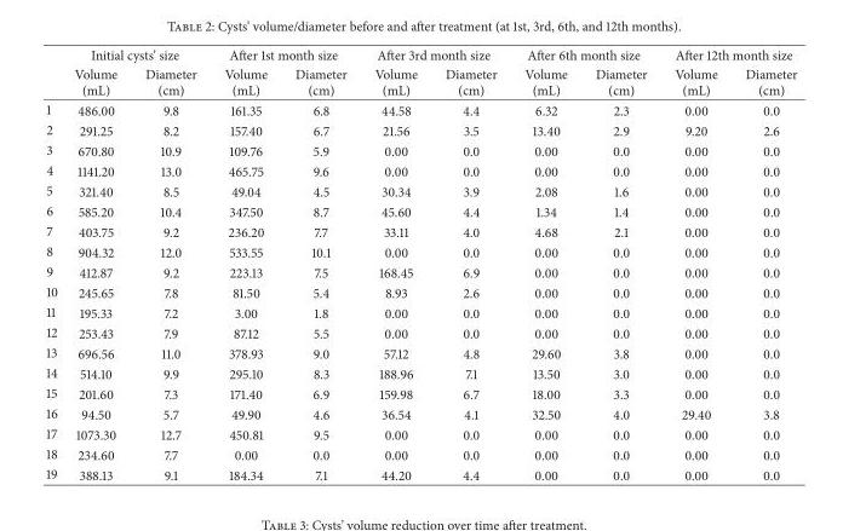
<table><thead><tr><td rowspan="2"></td><td colspan="2">Initial cysts’ size</td><td colspan="2">After 1st month size</td><td colspan="2">After 3rd month size</td><td colspan="2">After 6th month size</td><td colspan="2">After 12th month size</td></tr><tr><td>Volume (mL)</td><td>Diameter (cm)</td><td>Volume (mL)</td><td>Diameter (cm)</td><td>Volume (mL)</td><td>Diameter (cm)</td><td>Volume (mL)</td><td>Diameter (cm)</td><td>Volume (mL)</td><td>Diameter (cm)</td></tr></thead><tbody><tr><td>1</td><td>486.00</td><td>9.8</td><td>161.35</td><td>6.8</td><td>44.58</td><td>4.4</td><td>6.32</td><td>2.3</td><td>0.00</td><td>0.0</td></tr><tr><td>2</td><td>291.25</td><td>8.2</td><td>157.40</td><td>6.7</td><td>21.56</td><td>3.5</td><td>13.40</td><td>2.9</td><td>9.20</td><td>2.6</td></tr><tr><td>3</td><td>670.80</td><td>10.9</td><td>109.76</td><td>5.9</td><td>0.00</td><td>0.0</td><td>0.00</td><td>0.0</td><td>0.00</td><td>0.0</td></tr><tr><td>4</td><td>1141.20</td><td>13.0</td><td>465.75</td><td>9.6</td><td>0.00</td><td>0.0</td><td>0.00</td><td>0.0</td><td>0.00</td><td>0.0</td></tr><tr><td>5</td><td>321.40</td><td>8.5</td><td>49.04</td><td>4.5</td><td>30.34</td><td>3.9</td><td>2.08</td><td>1.6</td><td>0.00</td><td>0.0</td></tr><tr><td>6</td><td>585.20</td><td>10.4</td><td>347.50</td><td>8.7</td><td>45.60</td><td>4.4</td><td>1.34</td><td>1.4</td><td>0.00</td><td>0.0</td></tr><tr><td>7</td><td>403.75</td><td>9.2</td><td>236.20</td><td>7.7</td><td>33.11</td><td>4.0</td><td>4.68</td><td>2.1</td><td>0.00</td><td>0.0</td></tr><tr><td>8</td><td>904.32</td><td>12.0</td><td>533.55</td><td>10.1</td><td>0.00</td><td>0.0</td><td>0.00</td><td>0.0</td><td>0.00</td><td>0.0</td></tr><tr><td>9</td><td>412.87</td><td>9.2</td><td>223.13</td><td>7.5</td><td>168.45</td><td>6.9</td><td>0.00</td><td>0.0</td><td>0.00</td><td>0.0</td></tr><tr><td>10</td><td>245.65</td><td>7.8</td><td>81.50</td><td>5.4</td><td>8.93</td><td>2.6</td><td>0.00</td><td>0.0</td><td>0.00</td><td>0.0</td></tr><tr><td>11</td><td>195.33</td><td>7.2</td><td>3.00</td><td>1.8</td><td>0.00</td><td>0.0</td><td>0.00</td><td>0.0</td><td>0.00</td><td>0.0</td></tr><tr><td>12</td><td>253.43</td><td>7.9</td><td>87.12</td><td>5.5</td><td>0.00</td><td>0.0</td><td>0.00</td><td>0.0</td><td>0.00</td><td>0.0</td></tr><tr><td>13</td><td>696.56</td><td>11.0</td><td>378.93</td><td>9.0</td><td>57.12</td><td>4.8</td><td>29.60</td><td>3.8</td><td>0.00</td><td>0.0</td></tr><tr><td>14</td><td>514.10</td><td>9.9</td><td>295.10</td><td>8.3</td><td>188.96</td><td>7.1</td><td>13.50</td><td>3.0</td><td>0.00</td><td>0.0</td></tr><tr><td>15</td><td>201.60</td><td>7.3</td><td>171.40</td><td>6.9</td><td>159.98</td><td>6.7</td><td>18.00</td><td>3.3</td><td>0.00</td><td>0.0</td></tr><tr><td>16</td><td>94.50</td><td>5.7</td><td>49.90</td><td>4.6</td><td>36.54</td><td>4.1</td><td>32.50</td><td>4.0</td><td>29.40</td><td>3.8</td></tr><tr><td>17</td><td>1073.30</td><td>12.7</td><td>450.81</td><td>9.5</td><td>0.00</td><td>0.0</td><td>0.00</td><td>0.0</td><td>0.00</td><td>0.0</td></tr><tr><td>18</td><td>234.60</td><td>7.7</td><td>0.00</td><td>0.0</td><td>0.00</td><td>0.0</td><td>0.00</td><td>0.0</td><td>0.00</td><td>0.0</td></tr><tr><td>19</td><td>388.13</td><td>9.1</td><td>184.34</td><td>7.1</td><td>44.20</td><td>4.4</td><td>0.00</td><td>0.0</td><td>0.00</td><td>0.0</td></tr></tbody></table>